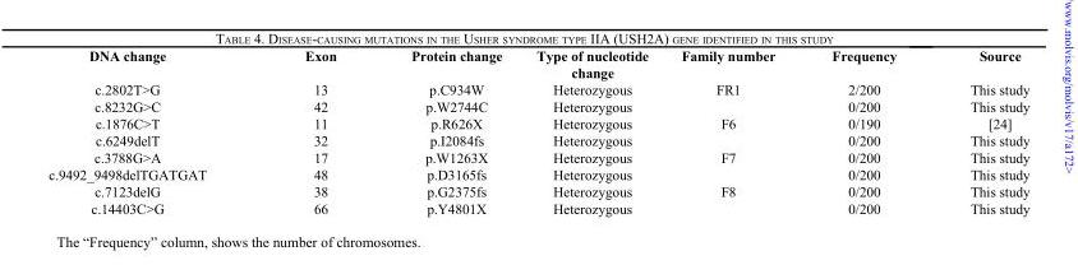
<table><thead><tr><td>DNA change</td><td>Exon</td><td>Protein change</td><td>Type of nucleotide change</td><td>Family number</td><td>Frequency</td><td>Source</td></tr></thead><tbody><tr><td>c.2802T&gt;G</td><td>13</td><td>p.C934W</td><td>Heterozygous</td><td>FR1</td><td>2/200</td><td>This study</td></tr><tr><td>c.8232G&gt;C</td><td>42</td><td>p.W2744C</td><td>Heterozygous</td><td></td><td>0/200</td><td>This study</td></tr><tr><td>c.1876C&gt;T</td><td>11</td><td>p.R626X</td><td>Heterozygous</td><td>F6</td><td>0/190</td><td>[24]</td></tr><tr><td>c.6249delT</td><td>32</td><td>p.I2084fs</td><td>Heterozygous</td><td></td><td>0/200</td><td>This study</td></tr><tr><td>c.3788G&gt;A</td><td>17</td><td>p.W1263X</td><td>Heterozygous</td><td>F7</td><td>0/200</td><td>This study</td></tr><tr><td>c.9492_9498delTGATGAT</td><td>48</td><td>p.D3165fs</td><td>Heterozygous</td><td></td><td>0/200</td><td>This study</td></tr><tr><td>c.7123delG</td><td>38</td><td>p.G2375fs</td><td>Heterozygous</td><td>F8</td><td>0/200</td><td>This study</td></tr><tr><td>c.14403C&gt;G</td><td>66</td><td>p.Y4801X</td><td>Heterozygous</td><td></td><td>0/200</td><td>This study</td></tr></tbody></table>